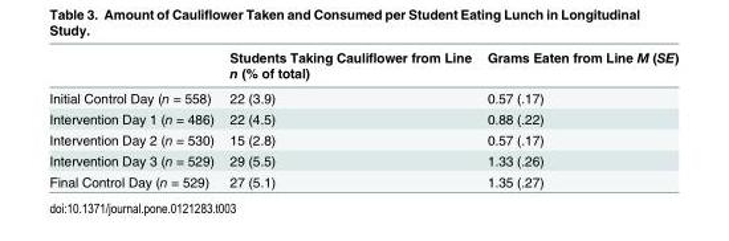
<table><thead><tr><td></td><td>Students Taking Cauliflower from Line n (% of total)</td><td>Grams Eaten from Line M (SE)</td></tr></thead><tbody><tr><td>Initial Control Day (n = 558)</td><td>22 (3.9)</td><td>0.57 (.17)</td></tr><tr><td>Intervention Day 1 (n = 486)</td><td>22 (4.5)</td><td>0.88 (.22)</td></tr><tr><td>Intervention Day 2 (n = 530)</td><td>15 (2.8)</td><td>0.57 (.17)</td></tr><tr><td>Intervention Day 3 (n = 529)</td><td>29 (5.5)</td><td>1.33 (.26)</td></tr><tr><td>Final Control Day (n = 529)</td><td>27 (5.1)</td><td>1.35 (.27)</td></tr></tbody></table>